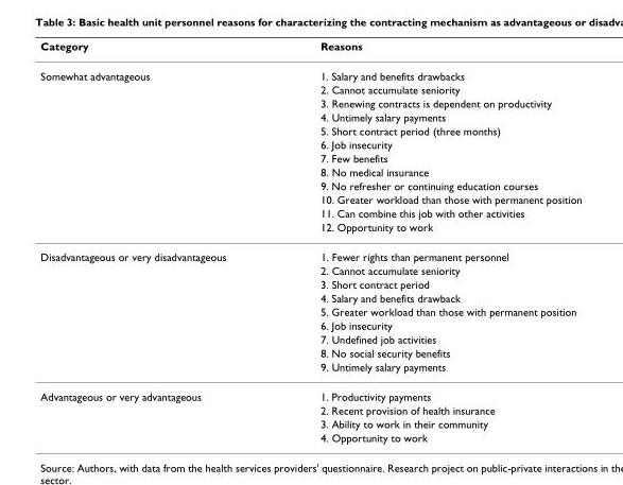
<table><thead><tr><td>Category</td><td>Reasons</td></tr></thead><tbody><tr><td rowspan="12">Somewhat advantageous</td><td>1. Salary and benefits drawbacks</td></tr><tr><td>2. Cannot accumulate seniority</td></tr><tr><td>3. Renewing contracts is dependent on productivity</td></tr><tr><td>4. Untimely salary payments</td></tr><tr><td>5. Short contract period (three months)</td></tr><tr><td>6. Job insecurity</td></tr><tr><td>7. Few benefits</td></tr><tr><td>8. No medical insurance</td></tr><tr><td>9. No refresher or continuing education courses</td></tr><tr><td>10. Greater workload than those with permanent position</td></tr><tr><td>11. Can combine this job with other activities</td></tr><tr><td>12. Opportunity to work</td></tr><tr><td rowspan="9">Disadvantageous or very disadvantageous</td><td>1. Fewer rights than permanent personnel</td></tr><tr><td>2. Cannot accumulate seniority</td></tr><tr><td>3. Short contract period</td></tr><tr><td>4. Salary and benefits drawback</td></tr><tr><td>5. Greater workload than those with permanent position</td></tr><tr><td>6. Job insecurity</td></tr><tr><td>7. Undefined job activities</td></tr><tr><td>8. No social security benefits</td></tr><tr><td>9. Untimely salary payments</td></tr><tr><td rowspan="4">Advantageous or very advantageous</td><td>1. Productivity payments</td></tr><tr><td>2. Recent provision of health insurance</td></tr><tr><td>3. Ability to work in their community</td></tr><tr><td>4. Opportunity to work</td></tr></tbody></table>